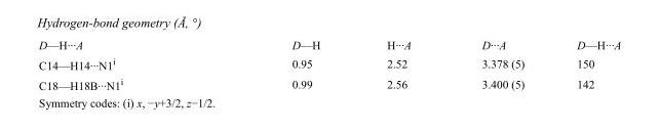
<table><tbody><tr><td>D—H···A</td><td>D—H</td><td>H···A</td><td>D···A</td><td>D—H···A</td></tr><tr><td>C14—H14···N1<sup>i</sup></td><td>0.95</td><td>2.52</td><td>3.378 (5)</td><td>150</td></tr><tr><td>C18—H18B···N1<sup>i</sup></td><td>0.99</td><td>2.56</td><td>3.400 (5)</td><td>142</td></tr></tbody></table>